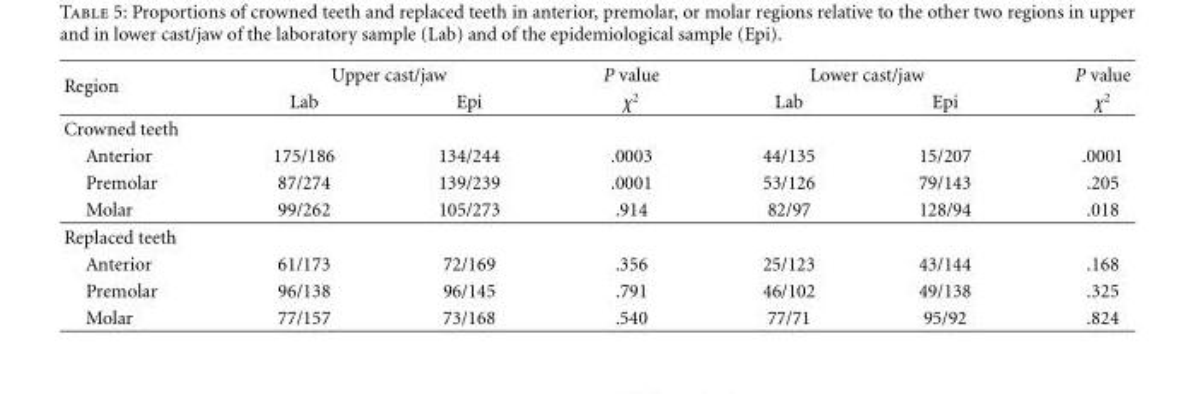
<table><thead><tr><td rowspan="2">Region</td><td colspan="2">Upper cast/jaw</td><td rowspan="2">P value χ<sup>2</sup></td><td colspan="2">Lower cast/jaw</td><td rowspan="2">P value χ<sup>2</sup></td></tr><tr><td>Lab</td><td>Epi</td><td>Lab</td><td>Epi</td></tr></thead><tbody><tr><td colspan="7">Crowned teeth</td></tr><tr><td>Anterior</td><td>175/186</td><td>134/244</td><td>.0003</td><td>44/135</td><td>15/207</td><td>.0001</td></tr><tr><td>Premolar</td><td>87/274</td><td>139/239</td><td>.0001</td><td>53/126</td><td>79/143</td><td>.205</td></tr><tr><td>Molar</td><td>99/262</td><td>105/273</td><td>.914</td><td>82/97</td><td>128/94</td><td>.018</td></tr><tr><td colspan="7">Replaced teeth</td></tr><tr><td>Anterior</td><td>61/173</td><td>72/169</td><td>.356</td><td>25/123</td><td>43/144</td><td>.168</td></tr><tr><td>Premolar</td><td>96/138</td><td>96/145</td><td>.791</td><td>46/102</td><td>49/138</td><td>.325</td></tr><tr><td>Molar</td><td>77/157</td><td>73/168</td><td>.540</td><td>77/71</td><td>95/92</td><td>.824</td></tr></tbody></table>